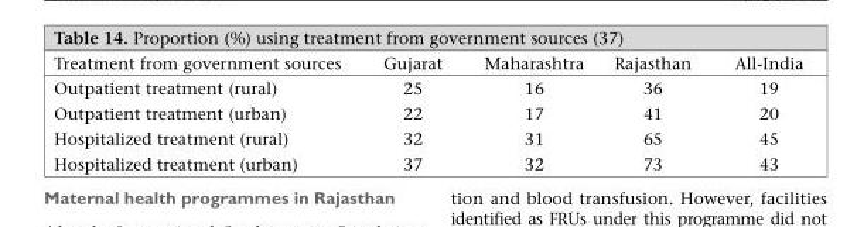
<table><thead><tr><td>Treatment from government sources</td><td>Gujarat</td><td>Maharashtra</td><td>Rajasthan</td><td>All-India</td></tr></thead><tbody><tr><td>Outpatient treatment (rural)</td><td>25</td><td>16</td><td>36</td><td>19</td></tr><tr><td>Outpatient treatment (urban)</td><td>22</td><td>17</td><td>41</td><td>20</td></tr><tr><td>Hospitalized treatment (rural)</td><td>32</td><td>31</td><td>65</td><td>45</td></tr><tr><td>Hospitalized treatment (urban)</td><td>37</td><td>32</td><td>73</td><td>43</td></tr></tbody></table>